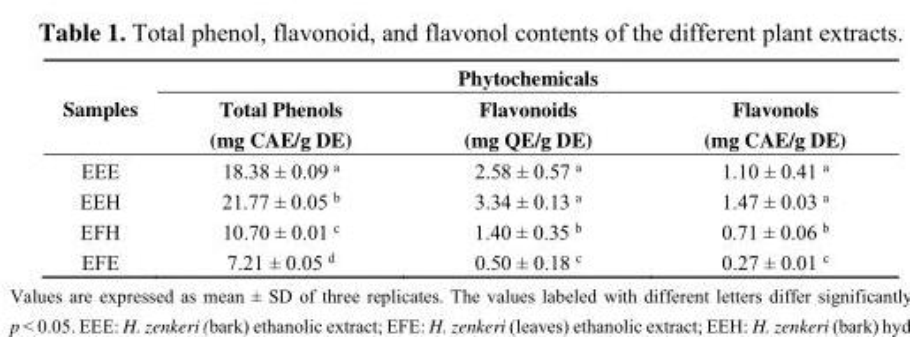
<table><thead><tr><td rowspan="2">Samples</td><td colspan="3">Phytochemicals</td></tr><tr><td>Total Phenols (mg CAE/g DE)</td><td>Flavonoids (mg QE/g DE)</td><td>Flavonols (mg CAE/g DE)</td></tr></thead><tbody><tr><td>EEE</td><td>18.38 ± 0.09 <sup>a</sup></td><td>2.58 ± 0.57 <sup>a</sup></td><td>1.10 ± 0.41 <sup>a</sup></td></tr><tr><td>EEH</td><td>21.77 ± 0.05 <sup>b</sup></td><td>3.34 ± 0.13 <sup>a</sup></td><td>1.47 ± 0.03 <sup>a</sup></td></tr><tr><td>EFH</td><td>10.70 ± 0.01 <sup>c</sup></td><td>1.40 ± 0.35 <sup>b</sup></td><td>0.71 ± 0.06 <sup>b</sup></td></tr><tr><td>EFE</td><td>7.21 ± 0.05 <sup>d</sup></td><td>0.50 ± 0.18 <sup>c</sup></td><td>0.27 ± 0.01 <sup>c</sup></td></tr></tbody></table>